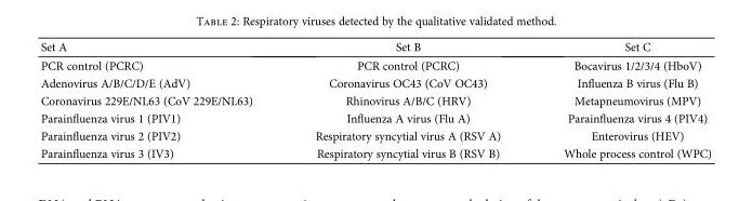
<table><thead><tr><td>Set A</td><td>Set B</td><td>Set C</td></tr></thead><tbody><tr><td>PCR control (PCRC)</td><td>PCR control (PCRC)</td><td>Bocavirus 1/2/3/4 (HboV)</td></tr><tr><td>Adenovirus A/B/C/D/E (AdV)</td><td>Coronavirus OC43 (CoV OC43)</td><td>Influenza B virus (Flu B)</td></tr><tr><td>Coronavirus 229E/NL63 (CoV 229E/NL63)</td><td>Rhinovirus A/B/C (HRV)</td><td>Metapneumovirus (MPV)</td></tr><tr><td>Parainfluenza virus 1 (PIV1)</td><td>Influenza A virus (Flu A)</td><td>Parainfluenza virus 4 (PIV4)</td></tr><tr><td>Parainfluenza virus 2 (PIV2)</td><td>Respiratory syncytial virus A (RSV A)</td><td>Enterovirus (HEV)</td></tr><tr><td>Parainfluenza virus 3 (IV3)</td><td>Respiratory syncytial virus B (RSV B)</td><td>Whole process control (WPC)</td></tr></tbody></table>